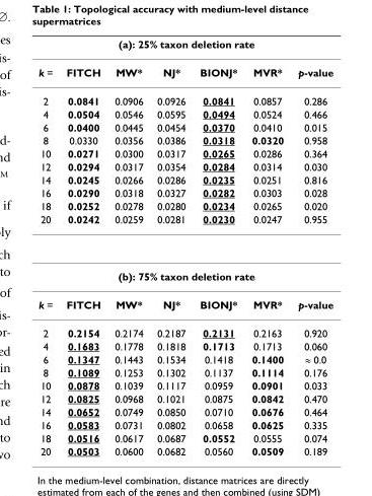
<table><thead><tr><td colspan="7">(a): 25% taxon deletion rate</td></tr><tr><td>k =</td><td>FITCH</td><td>MW*</td><td>NJ*</td><td>BIONJ*</td><td>MVR*</td><td>p-value</td></tr></thead><tbody><tr><td>2</td><td>0.0841</td><td>0.0906</td><td>0.0926</td><td>0.0841</td><td>0.0857</td><td>0.286</td></tr><tr><td>4</td><td>0.0504</td><td>0.0546</td><td>0.0595</td><td>0.0494</td><td>0.0524</td><td>0.466</td></tr><tr><td>6</td><td>0.0400</td><td>0.0445</td><td>0.0454</td><td>0.0370</td><td>0.0410</td><td>0.015</td></tr><tr><td>8</td><td>0.0330</td><td>0.0356</td><td>0.0386</td><td>0.0318</td><td>0.0320</td><td>0.958</td></tr><tr><td>10</td><td>0.0271</td><td>0.0300</td><td>0.0317</td><td>0.0265</td><td>0.0286</td><td>0.364</td></tr><tr><td>12</td><td>0.0294</td><td>0.0317</td><td>0.0354</td><td>0.0284</td><td>0.0314</td><td>0.030</td></tr><tr><td>14</td><td>0.0245</td><td>0.0266</td><td>0.0286</td><td>0.0235</td><td>0.0251</td><td>0.816</td></tr><tr><td>16</td><td>0.0290</td><td>0.0318</td><td>0.0327</td><td>0.0282</td><td>0.0303</td><td>0.028</td></tr><tr><td>18</td><td>0.0252</td><td>0.0278</td><td>0.0280</td><td>0.0234</td><td>0.0265</td><td>0.020</td></tr><tr><td>20</td><td>0.0242</td><td>0.0259</td><td>0.0281</td><td>0.0230</td><td>0.0247</td><td>0.955</td></tr><tr><td colspan="7">(b): 75% taxon deletion rate</td></tr><tr><td>k =</td><td>FITCH</td><td>MW*</td><td>NJ*</td><td>BIONJ*</td><td>MVR*</td><td>p-value</td></tr><tr><td>2</td><td>0.2154</td><td>0.2174</td><td>0.2187</td><td>0.2131</td><td>0.2163</td><td>0.920</td></tr><tr><td>4</td><td>0.1683</td><td>0.1778</td><td>0.1818</td><td>0.1713</td><td>0.1713</td><td>0.060</td></tr><tr><td>6</td><td>0.1347</td><td>0.1443</td><td>0.1534</td><td>0.1418</td><td>0.1400</td><td>≈ 0.0</td></tr><tr><td>8</td><td>0.1089</td><td>0.1253</td><td>0.1302</td><td>0.1137</td><td>0.1114</td><td>0.176</td></tr><tr><td>10</td><td>0.0878</td><td>0.1039</td><td>0.1117</td><td>0.0959</td><td>0.0901</td><td>0.033</td></tr><tr><td>12</td><td>0.0825</td><td>0.0968</td><td>0.1021</td><td>0.0875</td><td>0.0842</td><td>0.470</td></tr><tr><td>14</td><td>0.0652</td><td>0.0749</td><td>0.0850</td><td>0.0710</td><td>0.0676</td><td>0.464</td></tr><tr><td>16</td><td>0.0583</td><td>0.0731</td><td>0.0802</td><td>0.0658</td><td>0.0625</td><td>0.335</td></tr><tr><td>18</td><td>0.0516</td><td>0.0617</td><td>0.0687</td><td>0.0552</td><td>0.0555</td><td>0.074</td></tr><tr><td>20</td><td>0.0503</td><td>0.0600</td><td>0.0682</td><td>0.0560</td><td>0.0509</td><td>0.189</td></tr></tbody></table>